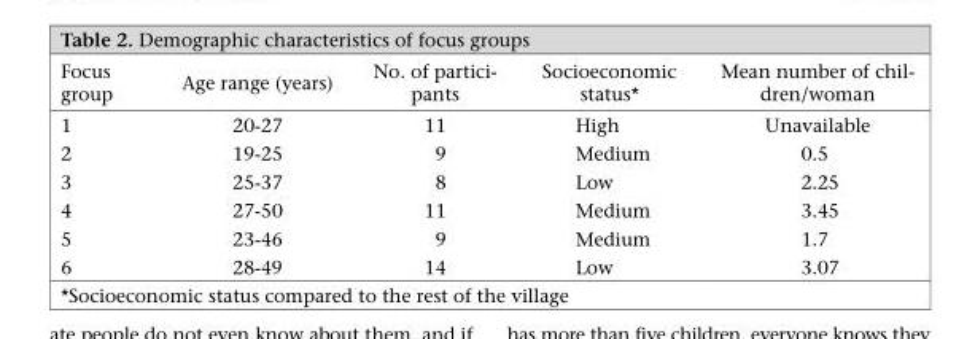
<table><thead><tr><td>Focus group</td><td>Age range (years)</td><td>No. of partici- pants</td><td>Socioeconomic status*</td><td>Mean number of chil- dren/woman</td></tr></thead><tbody><tr><td>1</td><td>20-27</td><td>11</td><td>High</td><td>Unavailable</td></tr><tr><td>2</td><td>19-25</td><td>9</td><td>Medium</td><td>0.5</td></tr><tr><td>3</td><td>25-37</td><td>8</td><td>Low</td><td>2.25</td></tr><tr><td>4</td><td>27-50</td><td>11</td><td>Medium</td><td>3.45</td></tr><tr><td>5</td><td>23-46</td><td>9</td><td>Medium</td><td>1.7</td></tr><tr><td>6</td><td>28-49</td><td>14</td><td>Low</td><td>3.07</td></tr></tbody></table>